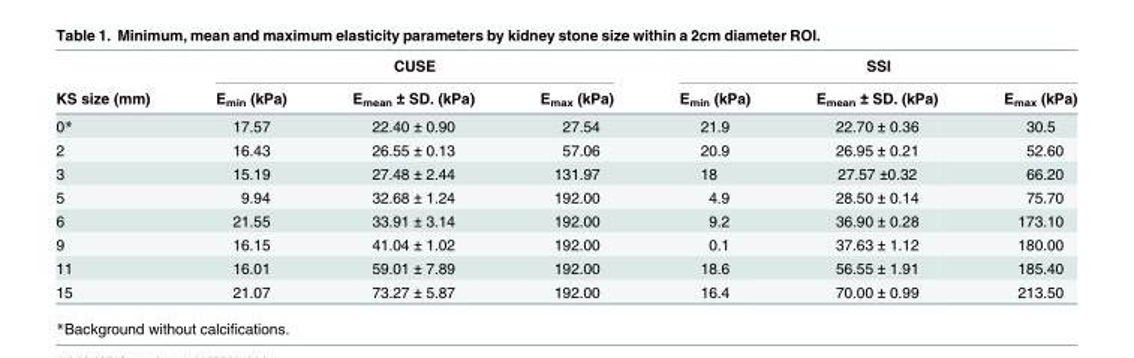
<table><thead><tr><td rowspan="2">KS size (mm)</td><td colspan="3">CUSE</td><td colspan="3">SSI</td></tr><tr><td>E<sub>min</sub> (kPa)</td><td>E<sub>mean</sub> ± SD. (kPa)</td><td>E<sub>max</sub> (kPa)</td><td>E<sub>min</sub> (kPa)</td><td>E<sub>mean</sub> ± SD. (kPa)</td><td>E<sub>max</sub> (kPa)</td></tr></thead><tbody><tr><td>0*</td><td>17.57</td><td>22.40 ± 0.90</td><td>27.54</td><td>21.9</td><td>22.70 ± 0.36</td><td>30.5</td></tr><tr><td>2</td><td>16.43</td><td>26.55 ± 0.13</td><td>57.06</td><td>20.9</td><td>26.95 ± 0.21</td><td>52.60</td></tr><tr><td>3</td><td>15.19</td><td>27.48 ± 2.44</td><td>131.97</td><td>18</td><td>27.57 ±0.32</td><td>66.20</td></tr><tr><td>5</td><td>9.94</td><td>32.68 ± 1.24</td><td>192.00</td><td>4.9</td><td>28.50 ± 0.14</td><td>75.70</td></tr><tr><td>6</td><td>21.55</td><td>33.91 ± 3.14</td><td>192.00</td><td>9.2</td><td>36.90 ± 0.28</td><td>173.10</td></tr><tr><td>9</td><td>16.15</td><td>41.04 ± 1.02</td><td>192.00</td><td>0.1</td><td>37.63 ± 1.12</td><td>180.00</td></tr><tr><td>11</td><td>16.01</td><td>59.01 ± 7.89</td><td>192.00</td><td>18.6</td><td>56.55 ± 1.91</td><td>185.40</td></tr><tr><td>15</td><td>21.07</td><td>73.27 ± 5.87</td><td>192.00</td><td>16.4</td><td>70.00 ± 0.99</td><td>213.50</td></tr></tbody></table>